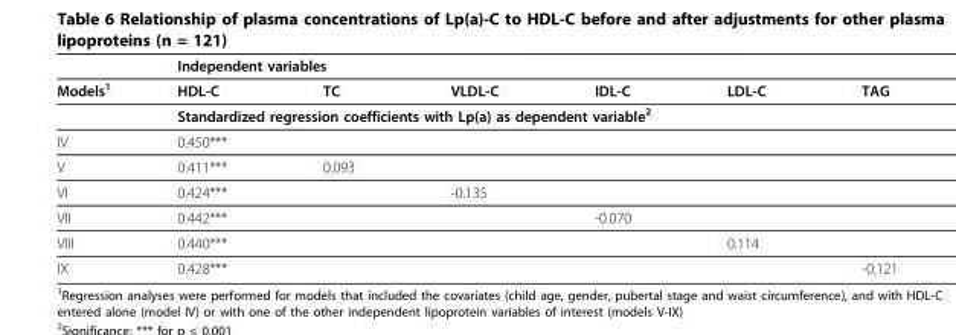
<table><thead><tr><td rowspan="2">Models<sup>1</sup></td><td colspan="6">Independent variables</td></tr><tr><td>HDL-C</td><td>TC</td><td>VLDL-C</td><td>IDL-C</td><td>LDL-C</td><td>TAG</td></tr></thead><tbody><tr><td></td><td colspan="6">Standardized regression coefficients with Lp(a) as dependent variable<sup>2</sup></td></tr><tr><td>IV</td><td>0.450***</td><td></td><td></td><td></td><td></td><td></td></tr><tr><td>V</td><td>0.411***</td><td>0.093</td><td></td><td></td><td></td><td></td></tr><tr><td>VI</td><td>0.424***</td><td></td><td>-0.135</td><td></td><td></td><td></td></tr><tr><td>VII</td><td>0.442***</td><td></td><td></td><td>-0.070</td><td></td><td></td></tr><tr><td>VIII</td><td>0.440***</td><td></td><td></td><td></td><td>0.114</td><td></td></tr><tr><td>IX</td><td>0.428***</td><td></td><td></td><td></td><td></td><td>-0.121</td></tr></tbody></table>